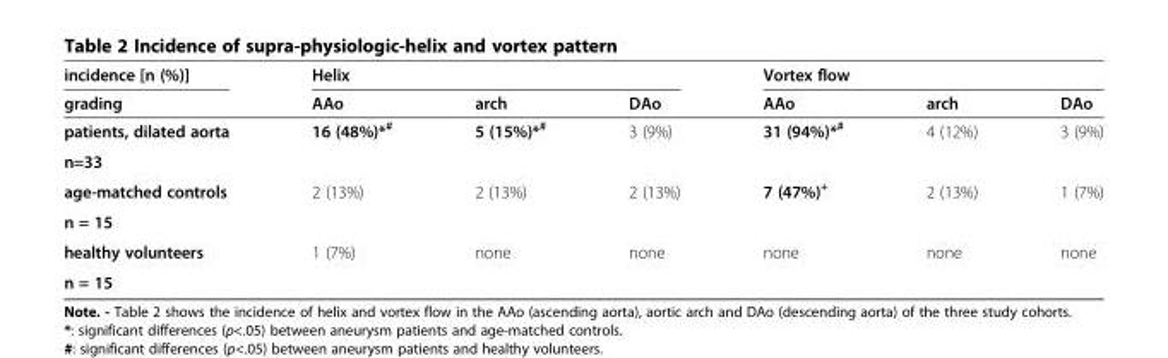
<table><thead><tr><td rowspan="2">incidence [n (%)] grading</td><td colspan="3">Helix</td><td colspan="3">Vortex flow</td></tr><tr><td>AAo</td><td>arch</td><td>DAo</td><td>AAo</td><td>arch</td><td>DAo</td></tr></thead><tbody><tr><td>patients, dilated aorta</td><td>16 (48%)*<sup>#</sup></td><td>5 (15%)*<sup>#</sup></td><td>3 (9%)</td><td>31 (94%)*<sup>#</sup></td><td>4 (12%)</td><td>3 (9%)</td></tr><tr><td colspan="7">n=33</td></tr><tr><td>age-matched controls</td><td>2 (13%)</td><td>2 (13%)</td><td>2 (13%)</td><td>7 (47%)<sup>+</sup></td><td>2 (13%)</td><td>1 (7%)</td></tr><tr><td colspan="7">n = 15</td></tr><tr><td>healthy volunteers</td><td>1 (7%)</td><td>none</td><td>none</td><td>none</td><td>none</td><td>none</td></tr><tr><td>n = 15</td><td></td><td></td><td></td><td></td><td></td><td></td></tr></tbody></table>